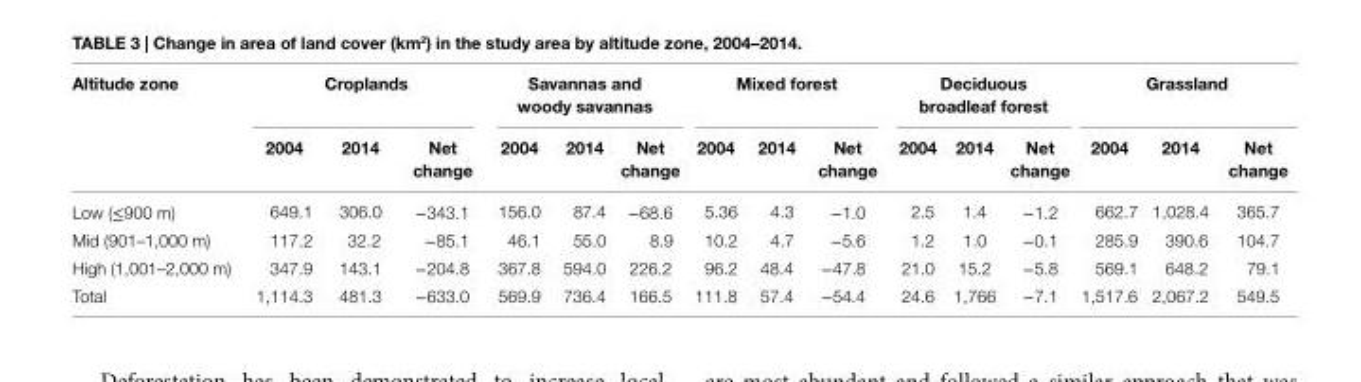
<table><thead><tr><td rowspan="2">altitude zone</td><td colspan="3">croplands</td><td colspan="3">savannas and woody savannas</td><td colspan="3">Mixed forest</td><td colspan="3">Deciduous broadleaf forest</td><td colspan="3">grassland</td></tr><tr><td>2004</td><td>2014</td><td>net change</td><td>2004</td><td>2014</td><td>net change</td><td>2004</td><td>2014</td><td>net change</td><td>2004</td><td>2014</td><td>net change</td><td>2004</td><td>2014</td><td>net change</td></tr></thead><tbody><tr><td>Low (≤900 m)</td><td>649.1</td><td>306.0</td><td>−343.1</td><td>156.0</td><td>87.4</td><td>−68.6</td><td>5.36</td><td>4.3</td><td>−1.0</td><td>2.5</td><td>1.4</td><td>−1.2</td><td>662.7</td><td>1,028.4</td><td>365.7</td></tr><tr><td>Mid (901–1,000 m)</td><td>117.2</td><td>32.2</td><td>−85.1</td><td>46.1</td><td>55.0</td><td>8.9</td><td>10.2</td><td>4.7</td><td>−5.6</td><td>1.2</td><td>1.0</td><td>−0.1</td><td>285.9</td><td>390.6</td><td>104.7</td></tr><tr><td>High (1,001–2,000 m)</td><td>347.9</td><td>143.1</td><td>−204.8</td><td>367.8</td><td>594.0</td><td>226.2</td><td>96.2</td><td>48.4</td><td>−47.8</td><td>21.0</td><td>15.2</td><td>−5.8</td><td>569.1</td><td>648.2</td><td>79.1</td></tr><tr><td>Total</td><td>1,114.3</td><td>481.3</td><td>−633.0</td><td>569.9</td><td>736.4</td><td>166.5</td><td>111.8</td><td>57.4</td><td>−54.4</td><td>24.6</td><td>1,766</td><td>−7.1</td><td>1,517.6</td><td>2,067.2</td><td>549.5</td></tr></tbody></table>